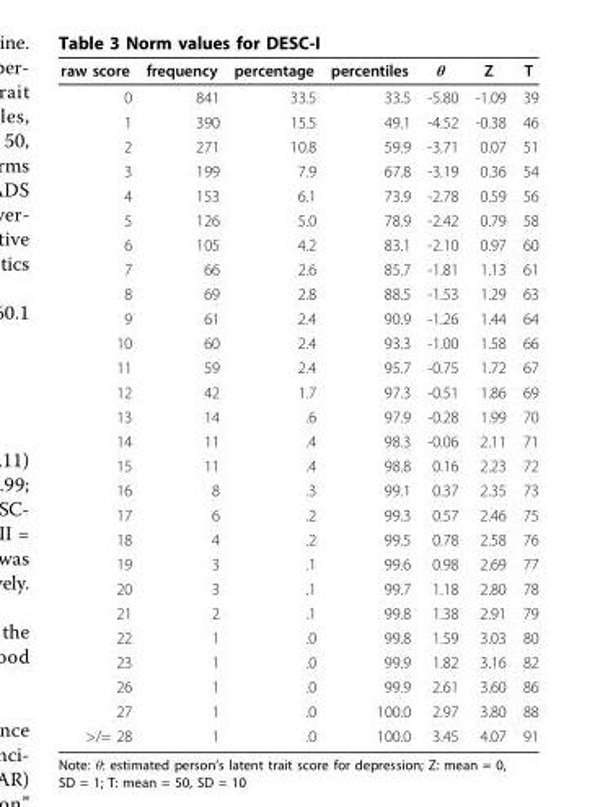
<table><thead><tr><td>raw score</td><td>frequency</td><td>percentage</td><td>percentiles</td><td>θ</td><td>Z</td><td>T</td></tr></thead><tbody><tr><td>0</td><td>841</td><td>33.5</td><td>33.5</td><td>-5.80</td><td>-1.09</td><td>39</td></tr><tr><td>1</td><td>390</td><td>15.5</td><td>49.1</td><td>-4.52</td><td>-0.38</td><td>46</td></tr><tr><td>2</td><td>271</td><td>10.8</td><td>59.9</td><td>-3.71</td><td>0.07</td><td>51</td></tr><tr><td>3</td><td>199</td><td>7.9</td><td>67.8</td><td>-3.19</td><td>0.36</td><td>54</td></tr><tr><td>4</td><td>153</td><td>6.1</td><td>73.9</td><td>-2.78</td><td>0.59</td><td>56</td></tr><tr><td>5</td><td>126</td><td>5.0</td><td>78.9</td><td>-2.42</td><td>0.79</td><td>58</td></tr><tr><td>6</td><td>105</td><td>4.2</td><td>83.1</td><td>-2.10</td><td>0.97</td><td>60</td></tr><tr><td>7</td><td>66</td><td>2.6</td><td>85.7</td><td>-1.81</td><td>1.13</td><td>61</td></tr><tr><td>8</td><td>69</td><td>2.8</td><td>88.5</td><td>-1.53</td><td>1.29</td><td>63</td></tr><tr><td>9</td><td>61</td><td>2.4</td><td>90.9</td><td>-1.26</td><td>1.44</td><td>64</td></tr><tr><td>10</td><td>60</td><td>2.4</td><td>93.3</td><td>-1.00</td><td>1.58</td><td>66</td></tr><tr><td>11</td><td>59</td><td>2.4</td><td>95.7</td><td>-0.75</td><td>1.72</td><td>67</td></tr><tr><td>12</td><td>42</td><td>1.7</td><td>97.3</td><td>-0.51</td><td>1.86</td><td>69</td></tr><tr><td>13</td><td>14</td><td>.6</td><td>97.9</td><td>-0.28</td><td>1.99</td><td>70</td></tr><tr><td>14</td><td>11</td><td>.4</td><td>98.3</td><td>-0.06</td><td>2.11</td><td>71</td></tr><tr><td>15</td><td>11</td><td>.4</td><td>98.8</td><td>0.16</td><td>2.23</td><td>72</td></tr><tr><td>16</td><td>8</td><td>.3</td><td>99.1</td><td>0.37</td><td>2.35</td><td>73</td></tr><tr><td>17</td><td>6</td><td>.2</td><td>99.3</td><td>0.57</td><td>2.46</td><td>75</td></tr><tr><td>18</td><td>4</td><td>.2</td><td>99.5</td><td>0.78</td><td>2.58</td><td>76</td></tr><tr><td>19</td><td>3</td><td>.1</td><td>99.6</td><td>0.98</td><td>2.69</td><td>77</td></tr><tr><td>20</td><td>3</td><td>.1</td><td>99.7</td><td>1.18</td><td>2.80</td><td>78</td></tr><tr><td>21</td><td>2</td><td>.1</td><td>99.8</td><td>1.38</td><td>2.91</td><td>79</td></tr><tr><td>22</td><td>1</td><td>.0</td><td>99.8</td><td>1.59</td><td>3.03</td><td>80</td></tr><tr><td>23</td><td>1</td><td>.0</td><td>99.9</td><td>1.82</td><td>3.16</td><td>82</td></tr><tr><td>26</td><td>1</td><td>.0</td><td>99.9</td><td>2.61</td><td>3.60</td><td>86</td></tr><tr><td>27</td><td>1</td><td>.0</td><td>100.0</td><td>2.97</td><td>3.80</td><td>88</td></tr><tr><td>&gt;/= 28</td><td>1</td><td>.0</td><td>100.0</td><td>3.45</td><td>4.07</td><td>91</td></tr></tbody></table>